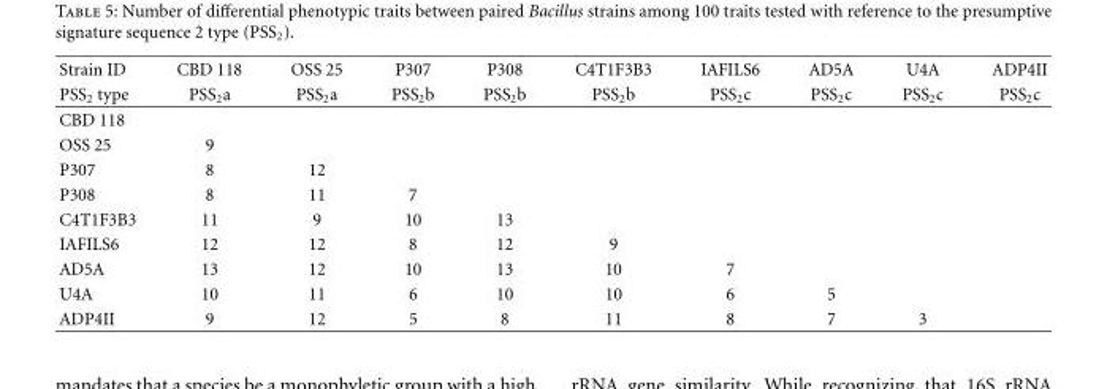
<table><thead><tr><td rowspan="2">Strain ID PSS<sub>2</sub> type</td><td rowspan="2">CBD 118 PSS2a</td><td rowspan="2">OSS 25 PSS2a</td><td rowspan="2">P307 PSS2b</td><td rowspan="2">P308 PSS2b</td><td rowspan="2">C4T1F3B3 PSS2b</td><td rowspan="2">IAFILS6 PSS2c</td><td rowspan="2">AD5A PSS2c</td><td rowspan="2">U4A PSS2c</td><td rowspan="2">ADP4II PSS2c</td></tr><tr></tr></thead><tbody><tr><td colspan="10">CBD 118</td></tr><tr><td>OSS 25</td><td>9</td><td></td><td></td><td></td><td></td><td></td><td></td><td></td><td></td></tr><tr><td>P307</td><td>8</td><td>12</td><td></td><td></td><td></td><td></td><td></td><td></td><td></td></tr><tr><td>P308</td><td>8</td><td>11</td><td>7</td><td></td><td></td><td></td><td></td><td></td><td></td></tr><tr><td>C4T1F3B3</td><td>11</td><td>9</td><td>10</td><td>13</td><td></td><td></td><td></td><td></td><td></td></tr><tr><td>IAFILS6</td><td>12</td><td>12</td><td>8</td><td>12</td><td>9</td><td></td><td></td><td></td><td></td></tr><tr><td>AD5A</td><td>13</td><td>12</td><td>10</td><td>13</td><td>10</td><td>7</td><td></td><td></td><td></td></tr><tr><td>U4A</td><td>10</td><td>11</td><td>6</td><td>10</td><td>10</td><td>6</td><td>5</td><td></td><td></td></tr><tr><td>ADP4II</td><td>9</td><td>12</td><td>5</td><td>8</td><td>11</td><td>8</td><td>7</td><td>3</td><td></td></tr></tbody></table>